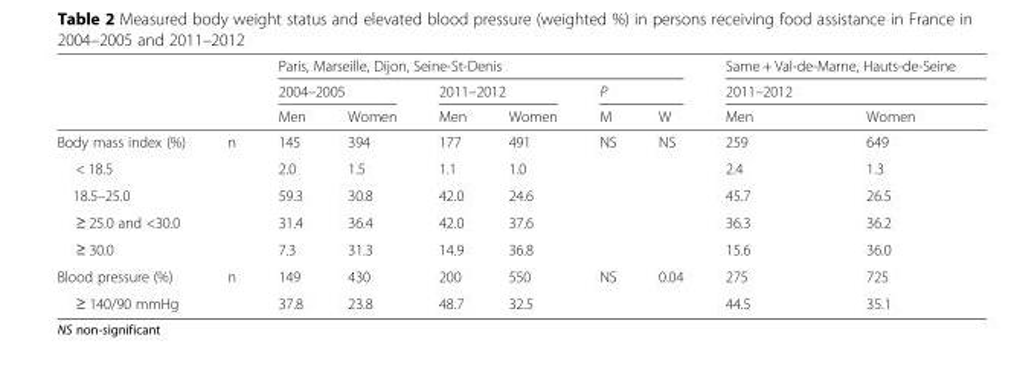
<table><thead><tr><td rowspan="3"></td><td rowspan="3"></td><td colspan="6">Paris, Marseille, Dijon, Seine-St-Denis</td><td rowspan="2" colspan="2">Same + Val-de-Marne, Hauts-de-Seine 2011–2012</td></tr><tr><td colspan="2">2004–2005</td><td colspan="2">2011–2012</td><td colspan="2">P</td></tr><tr><td>Men</td><td>Women</td><td>Men</td><td>Women</td><td>M</td><td>W</td><td>Men</td><td>Women</td></tr></thead><tbody><tr><td>Body mass index (%)</td><td rowspan="5">n</td><td>145</td><td>394</td><td>177</td><td>491</td><td rowspan="5">NS</td><td rowspan="5">NS</td><td>259</td><td>649</td></tr><tr><td>&lt; 18.5</td><td>2.0</td><td>1.5</td><td>1.1</td><td>1.0</td><td>2.4</td><td>1.3</td></tr><tr><td>18.5–25.0</td><td>59.3</td><td>30.8</td><td>42.0</td><td>24.6</td><td>45.7</td><td>26.5</td></tr><tr><td>≥ 25.0 and &lt;30.0</td><td>31.4</td><td>36.4</td><td>42.0</td><td>37.6</td><td>36.3</td><td>36.2</td></tr><tr><td>≥ 30.0</td><td>7.3</td><td>31.3</td><td>14.9</td><td>36.8</td><td>15.6</td><td>36.0</td></tr><tr><td>Blood pressure (%)</td><td rowspan="2">n</td><td>149</td><td>430</td><td>200</td><td>550</td><td rowspan="2">NS</td><td rowspan="2">0.04</td><td>275</td><td>725</td></tr><tr><td>≥ 140/90 mmHg</td><td>37.8</td><td>23.8</td><td>48.7</td><td>32.5</td><td>44.5</td><td>35.1</td></tr></tbody></table>